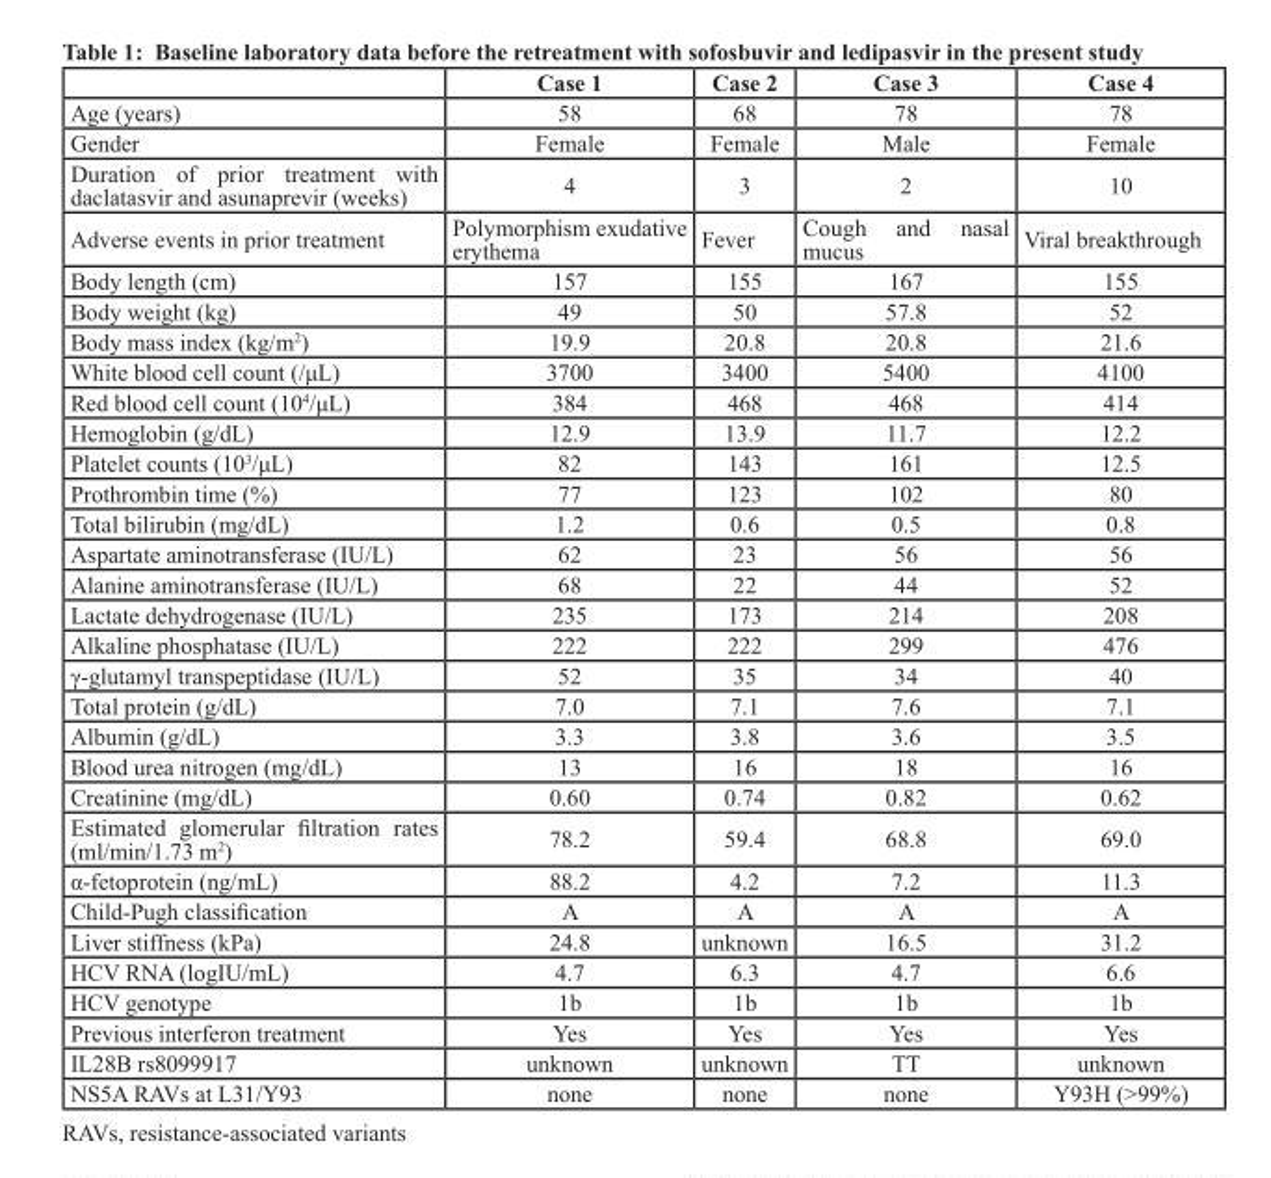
<table><thead><tr><td></td><td>Case 1</td><td>Case 2</td><td>Case 3</td><td>Case 4</td></tr></thead><tbody><tr><td>Age (years)</td><td>58</td><td>68</td><td>78</td><td>78</td></tr><tr><td>Gender</td><td>Female</td><td>Female</td><td>Male</td><td>Female</td></tr><tr><td>Duration of prior treatment with daclatasvir and asunaprevir (weeks)</td><td>4</td><td>3</td><td>2</td><td>10</td></tr><tr><td>Adverse events in prior treatment</td><td>Polymorphism exudative erythema</td><td>Fever</td><td>Cough and nasal mucus</td><td>Viral breakthrough</td></tr><tr><td>Body length (cm)</td><td>157</td><td>155</td><td>167</td><td>155</td></tr><tr><td>Body weight (kg)</td><td>49</td><td>50</td><td>57.8</td><td>52</td></tr><tr><td>Body mass index (kg/m<sup>2</sup>)</td><td>19.9</td><td>20.8</td><td>20.8</td><td>21.6</td></tr><tr><td>White blood cell count (/μL)</td><td>3700</td><td>3400</td><td>5400</td><td>4100</td></tr><tr><td>Red blood cell count (10<sup>4</sup>/μL)</td><td>384</td><td>468</td><td>468</td><td>414</td></tr><tr><td>Hemoglobin (g/dL)</td><td>12.9</td><td>13.9</td><td>11.7</td><td>12.2</td></tr><tr><td>Platelet counts (10<sup>3</sup>/μL)</td><td>82</td><td>143</td><td>161</td><td>12.5</td></tr><tr><td>Prothrombin time (%)</td><td>77</td><td>123</td><td>102</td><td>80</td></tr><tr><td>Total bilirubin (mg/dL)</td><td>1.2</td><td>0.6</td><td>0.5</td><td>0.8</td></tr><tr><td>Aspartate aminotransferase (IU/L)</td><td>62</td><td>23</td><td>56</td><td>56</td></tr><tr><td>Alanine aminotransferase (IU/L)</td><td>68</td><td>22</td><td>44</td><td>52</td></tr><tr><td>Lactate dehydrogenase (IU/L)</td><td>235</td><td>173</td><td>214</td><td>208</td></tr><tr><td>Alkaline phosphatase (IU/L)</td><td>222</td><td>222</td><td>299</td><td>476</td></tr><tr><td>γ-glutamyl transpeptidase (IU/L)</td><td>52</td><td>35</td><td>34</td><td>40</td></tr><tr><td>Total protein (g/dL)</td><td>7.0</td><td>7.1</td><td>7.6</td><td>7.1</td></tr><tr><td>Albumin (g/dL)</td><td>3.3</td><td>3.8</td><td>3.6</td><td>3.5</td></tr><tr><td>Blood urea nitrogen (mg/dL)</td><td>13</td><td>16</td><td>18</td><td>16</td></tr><tr><td>Creatinine (mg/dL)</td><td>0.60</td><td>0.74</td><td>0.82</td><td>0.62</td></tr><tr><td>Estimated glomerular filtration rates (ml/min/1.73 m<sup>2</sup>)</td><td>78.2</td><td>59.4</td><td>68.8</td><td>69.0</td></tr><tr><td>α-fetoprotein (ng/mL)</td><td>88.2</td><td>4.2</td><td>7.2</td><td>11.3</td></tr><tr><td>Child-Pugh classification</td><td>A</td><td>A</td><td>A</td><td>A</td></tr><tr><td>Liver stiffness (kPa)</td><td>24.8</td><td>unknown</td><td>16.5</td><td>31.2</td></tr><tr><td>HCV RNA (logIU/mL)</td><td>4.7</td><td>6.3</td><td>4.7</td><td>6.6</td></tr><tr><td>HCV genotype</td><td>1b</td><td>1b</td><td>1b</td><td>1b</td></tr><tr><td>Previous interferon treatment</td><td>Yes</td><td>Yes</td><td>Yes</td><td>Yes</td></tr><tr><td>IL28B rs8099917</td><td>unknown</td><td>unknown</td><td>TT</td><td>unknown</td></tr><tr><td>NS5A RAVs at L31/Y93</td><td>none</td><td>none</td><td>none</td><td>Y93H (&gt;99%)</td></tr></tbody></table>